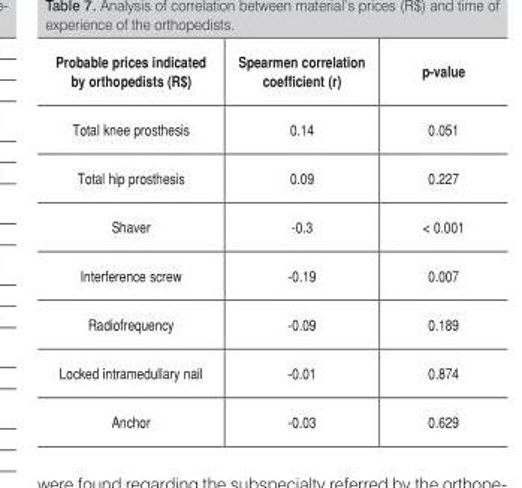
<table><thead><tr><td>Probable prices indicated by orthopedists (R$)</td><td>Spearmen correlation coefficient (r)</td><td>p-value</td></tr></thead><tbody><tr><td>Total knee prosthesis</td><td>0.14</td><td>0.051</td></tr><tr><td>Total hip prosthesis</td><td>0.09</td><td>0.227</td></tr><tr><td>Shaver</td><td>-0.3</td><td>&lt; 0.001</td></tr><tr><td>Interference screw</td><td>-0.19</td><td>0.007</td></tr><tr><td>Radiofrequency</td><td>-0.09</td><td>0.189</td></tr><tr><td>Locked intramedullary nail</td><td>-0.01</td><td>0.874</td></tr><tr><td>Anchor</td><td>-0.03</td><td>0.629</td></tr></tbody></table>